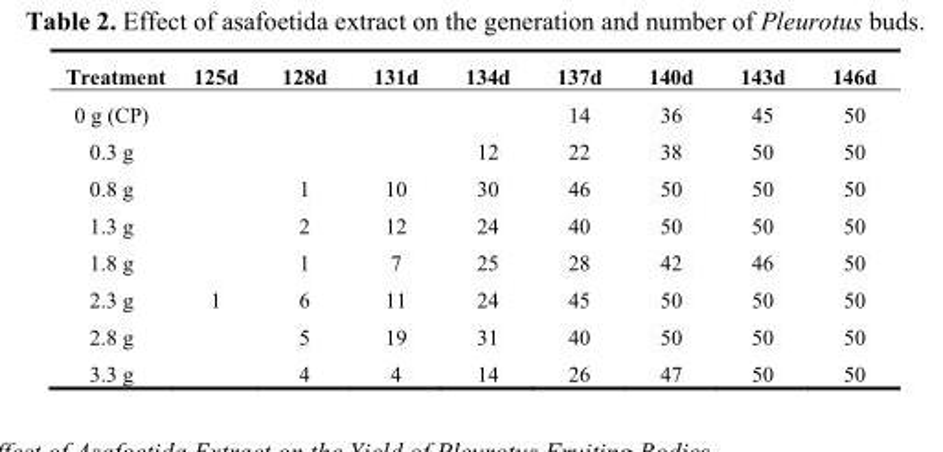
<table><thead><tr><td>Treatment</td><td>125d</td><td>128d</td><td>131d</td><td>134d</td><td>137d</td><td>140d</td><td>143d</td><td>146d</td></tr></thead><tbody><tr><td>0 g (CP)</td><td></td><td></td><td></td><td></td><td>14</td><td>36</td><td>45</td><td>50</td></tr><tr><td>0.3 g</td><td></td><td></td><td></td><td>12</td><td>22</td><td>38</td><td>50</td><td>50</td></tr><tr><td>0.8 g</td><td></td><td>1</td><td>10</td><td>30</td><td>46</td><td>50</td><td>50</td><td>50</td></tr><tr><td>1.3 g</td><td></td><td>2</td><td>12</td><td>24</td><td>40</td><td>50</td><td>50</td><td>50</td></tr><tr><td>1.8 g</td><td></td><td>1</td><td>7</td><td>25</td><td>28</td><td>42</td><td>46</td><td>50</td></tr><tr><td>2.3 g</td><td>1</td><td>6</td><td>11</td><td>24</td><td>45</td><td>50</td><td>50</td><td>50</td></tr><tr><td>2.8 g</td><td></td><td>5</td><td>19</td><td>31</td><td>40</td><td>50</td><td>50</td><td>50</td></tr><tr><td>3.3 g</td><td></td><td>4</td><td>4</td><td>14</td><td>26</td><td>47</td><td>50</td><td>50</td></tr></tbody></table>